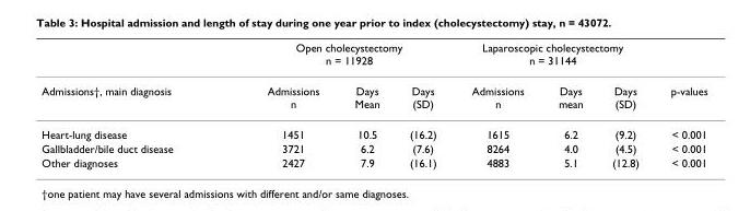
<table><thead><tr><td rowspan="2">Admissions†, main diagnosis</td><td colspan="3">Open cholecystectomy n = 11928</td><td colspan="3">Laparoscopic cholecystectomy n = 31144</td><td rowspan="2">p-values</td></tr><tr><td>Admissions n</td><td>Days Mean</td><td>Days (SD)</td><td>Admissions n</td><td>Days mean</td><td>Days (SD)</td></tr></thead><tbody><tr><td>Heart-lung disease</td><td>1451</td><td>10.5</td><td>(16.2)</td><td>1615</td><td>6.2</td><td>(9.2)</td><td>&lt; 0.001</td></tr><tr><td>Gallbladder/bile duct disease</td><td>3721</td><td>6.2</td><td>(7.6)</td><td>8264</td><td>4.0</td><td>(4.5)</td><td>&lt; 0.001</td></tr><tr><td>Other diagnoses</td><td>2427</td><td>7.9</td><td>(16.1)</td><td>4883</td><td>5.1</td><td>(12.8)</td><td>&lt; 0.001</td></tr></tbody></table>